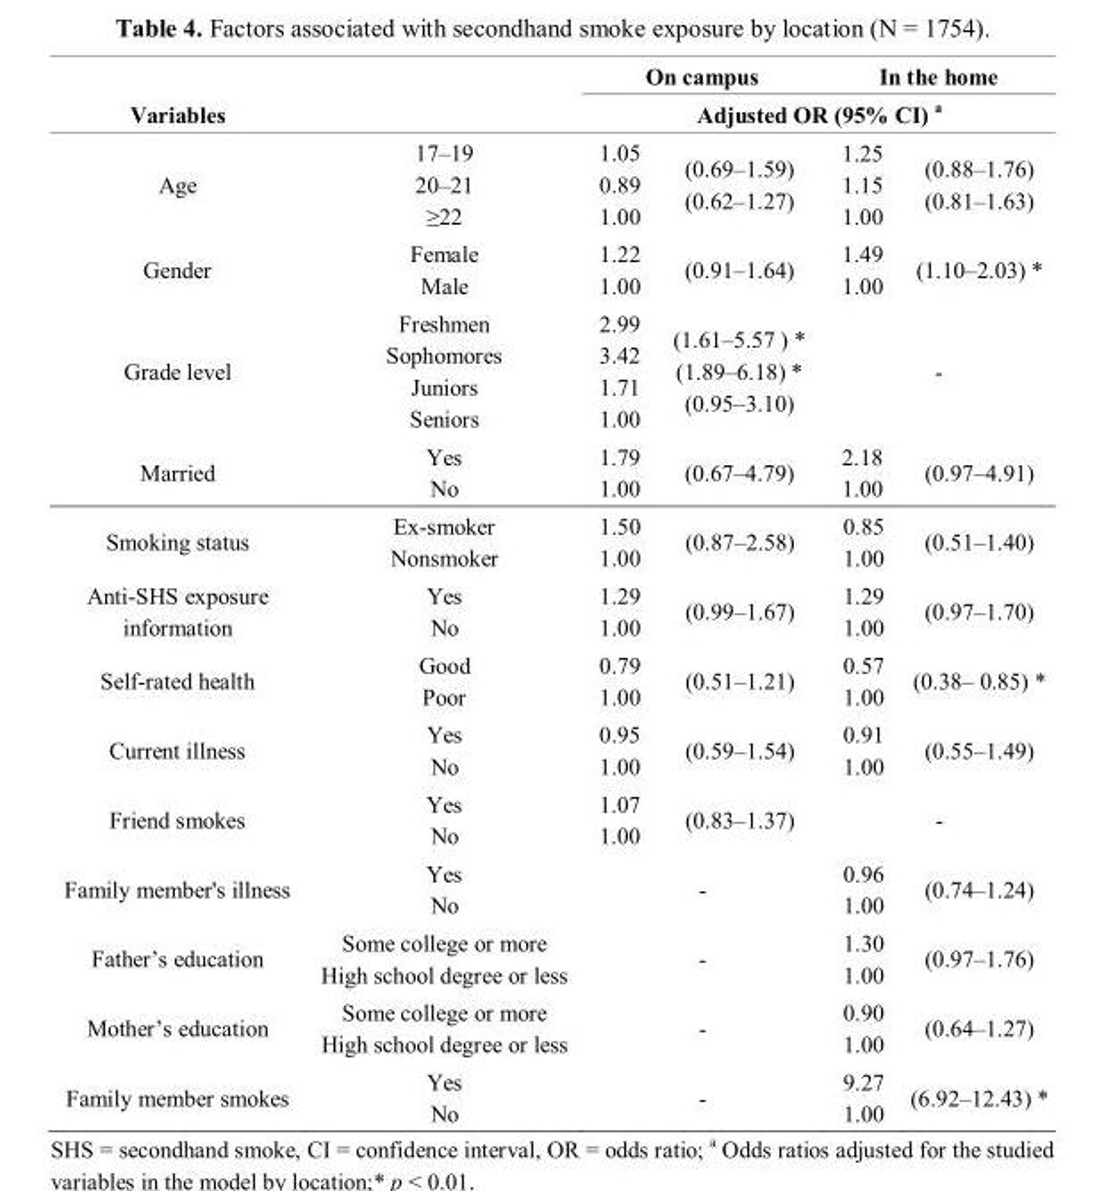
<table><thead><tr><td rowspan="3">Variables Age</td><td rowspan="3">17–19 20–21 ≥22</td><td colspan="2">On campus</td><td colspan="2">In the home</td></tr><tr><td colspan="4">Adjusted OR (95% CI) <sup>a</sup></td></tr><tr><td>1.05 0.89 1.00</td><td>(0.69–1.59) (0.62–1.27)</td><td>1.25 1.15 1.00</td><td>(0.88–1.76) (0.81–1.63)</td></tr></thead><tbody><tr><td>Gender</td><td>Female Male</td><td>1.22 1.00</td><td>(0.91–1.64)</td><td>1.49 1.00</td><td>(1.10–2.03) *</td></tr><tr><td>Grade level</td><td>Freshmen Sophomores Juniors Seniors</td><td>2.99 3.42 1.71 1.00</td><td>(1.61–5.57 ) * (1.89–6.18) * (0.95–3.10)</td><td colspan="2">-</td></tr><tr><td>Married</td><td>Yes No</td><td>1.79 1.00</td><td>(0.67–4.79)</td><td>2.18 1.00</td><td>(0.97–4.91)</td></tr><tr><td>Smoking status</td><td>Ex-smoker Nonsmoker</td><td>1.50 1.00</td><td>(0.87–2.58)</td><td>0.85 1.00</td><td>(0.51–1.40)</td></tr><tr><td>Anti-SHS exposure information</td><td>Yes No</td><td>1.29 1.00</td><td>(0.99–1.67)</td><td>1.29 1.00</td><td>(0.97–1.70)</td></tr><tr><td>Self-rated health</td><td>Good Poor</td><td>0.79 1.00</td><td>(0.51–1.21)</td><td>0.57 1.00</td><td>(0.38– 0.85) *</td></tr><tr><td>Current illness</td><td>Yes No</td><td>0.95 1.00</td><td>(0.59–1.54)</td><td>0.91 1.00</td><td>(0.55–1.49)</td></tr><tr><td>Friend smokes</td><td>Yes No</td><td>1.07 1.00</td><td>(0.83–1.37)</td><td colspan="2">-</td></tr><tr><td>Family member&#x27;s illness</td><td>Yes No</td><td colspan="2">-</td><td>0.96 1.00</td><td>(0.74–1.24)</td></tr><tr><td>Father’s education</td><td>Some college or more High school degree or less</td><td colspan="2">-</td><td>1.30 1.00</td><td>(0.97–1.76)</td></tr><tr><td>Mother’s education</td><td>Some college or more High school degree or less</td><td colspan="2">-</td><td>0.90 1.00</td><td>(0.64–1.27)</td></tr><tr><td>Family member smokes</td><td>Yes No</td><td colspan="2">-</td><td>9.27 1.00</td><td>(6.92–12.43) *</td></tr></tbody></table>